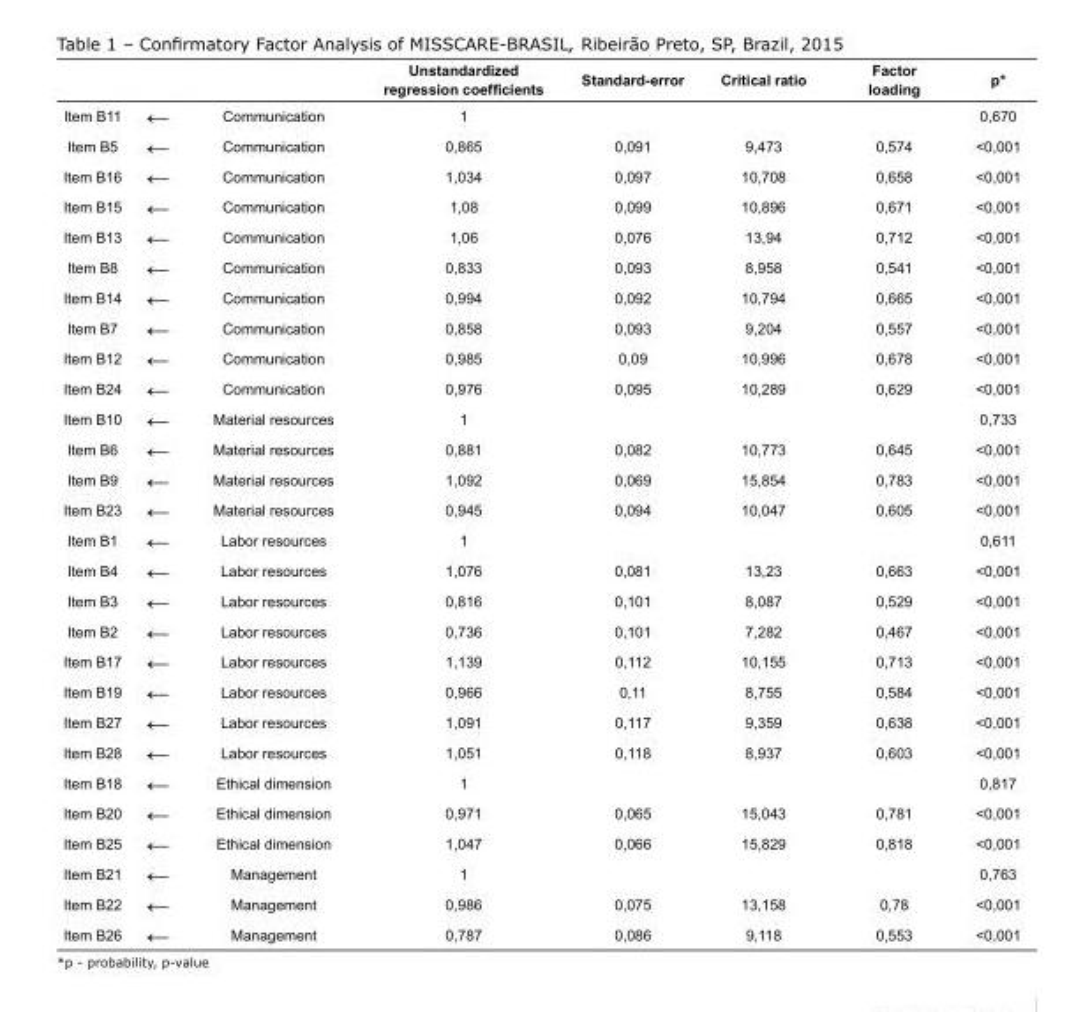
<table><thead><tr><td></td><td></td><td></td><td>Unstandardized regression coefficients</td><td>Standard-error</td><td>Critical ratio</td><td>Factor loading</td><td>p*</td></tr></thead><tbody><tr><td>Item B11</td><td>←</td><td>Communication</td><td>1</td><td></td><td></td><td></td><td>0,670</td></tr><tr><td>Item B5</td><td>←</td><td>Communication</td><td>0,865</td><td>0,091</td><td>9,473</td><td>0,574</td><td>&lt;0,001</td></tr><tr><td>Item B16</td><td>←</td><td>Communication</td><td>1,034</td><td>0,097</td><td>10,708</td><td>0,658</td><td>&lt;0,001</td></tr><tr><td>Item B15</td><td>←</td><td>Communication</td><td>1,08</td><td>0,099</td><td>10,896</td><td>0,671</td><td>&lt;0,001</td></tr><tr><td>Item B13</td><td>←</td><td>Communication</td><td>1,06</td><td>0,076</td><td>13,94</td><td>0,712</td><td>&lt;0,001</td></tr><tr><td>Item B8</td><td>←</td><td>Communication</td><td>0,833</td><td>0,093</td><td>8,958</td><td>0,541</td><td>&lt;0,001</td></tr><tr><td>Item B14</td><td>←</td><td>Communication</td><td>0,994</td><td>0,092</td><td>10,794</td><td>0,665</td><td>&lt;0,001</td></tr><tr><td>Item B7</td><td>←</td><td>Communication</td><td>0,858</td><td>0,093</td><td>9,204</td><td>0,557</td><td>&lt;0,001</td></tr><tr><td>Item B12</td><td>←</td><td>Communication</td><td>0,985</td><td>0,09</td><td>10,996</td><td>0,678</td><td>&lt;0,001</td></tr><tr><td>Item B24</td><td>←</td><td>Communication</td><td>0,976</td><td>0,095</td><td>10,289</td><td>0,629</td><td>&lt;0,001</td></tr><tr><td>Item B10</td><td>←</td><td>Material resources</td><td>1</td><td></td><td></td><td></td><td>0,733</td></tr><tr><td>Item B6</td><td>←</td><td>Material resources</td><td>0,881</td><td>0,082</td><td>10,773</td><td>0,645</td><td>&lt;0,001</td></tr><tr><td>Item B9</td><td>←</td><td>Material resources</td><td>1,092</td><td>0,069</td><td>15,854</td><td>0,783</td><td>&lt;0,001</td></tr><tr><td>Item B23</td><td>←</td><td>Material resources</td><td>0,945</td><td>0,094</td><td>10,047</td><td>0,605</td><td>&lt;0,001</td></tr><tr><td>Item B1</td><td>←</td><td>Labor resources</td><td>1</td><td></td><td></td><td></td><td>0,611</td></tr><tr><td>Item B4</td><td>←</td><td>Labor resources</td><td>1,076</td><td>0,081</td><td>13,23</td><td>0,663</td><td>&lt;0,001</td></tr><tr><td>Item B3</td><td>←</td><td>Labor resources</td><td>0,816</td><td>0,101</td><td>8,087</td><td>0,529</td><td>&lt;0,001</td></tr><tr><td>Item B2</td><td>←</td><td>Labor resources</td><td>0,736</td><td>0,101</td><td>7,282</td><td>0,467</td><td>&lt;0,001</td></tr><tr><td>Item B17</td><td>←</td><td>Labor resources</td><td>1,139</td><td>0,112</td><td>10,155</td><td>0,713</td><td>&lt;0,001</td></tr><tr><td>Item B19</td><td>←</td><td>Labor resources</td><td>0,966</td><td>0,11</td><td>8,755</td><td>0,584</td><td>&lt;0,001</td></tr><tr><td>Item B27</td><td>←</td><td>Labor resources</td><td>1,091</td><td>0,117</td><td>9,359</td><td>0,638</td><td>&lt;0,001</td></tr><tr><td>Item B28</td><td>←</td><td>Labor resources</td><td>1,051</td><td>0,118</td><td>8,937</td><td>0,603</td><td>&lt;0,001</td></tr><tr><td>Item B18</td><td>←</td><td>Ethical dimension</td><td>1</td><td></td><td></td><td></td><td>0,817</td></tr><tr><td>Item B20</td><td>←</td><td>Ethical dimension</td><td>0,971</td><td>0,065</td><td>15,043</td><td>0,781</td><td>&lt;0,001</td></tr><tr><td>Item B25</td><td>←</td><td>Ethical dimension</td><td>1,047</td><td>0,066</td><td>15,829</td><td>0,818</td><td>&lt;0,001</td></tr><tr><td>Item B21</td><td>←</td><td>Management</td><td>1</td><td></td><td></td><td></td><td>0,763</td></tr><tr><td>Item B22</td><td>←</td><td>Management</td><td>0,986</td><td>0,075</td><td>13,158</td><td>0,78</td><td>&lt;0,001</td></tr><tr><td>Item B26</td><td>←</td><td>Management</td><td>0,787</td><td>0,086</td><td>9,118</td><td>0,553</td><td>&lt;0,001</td></tr></tbody></table>